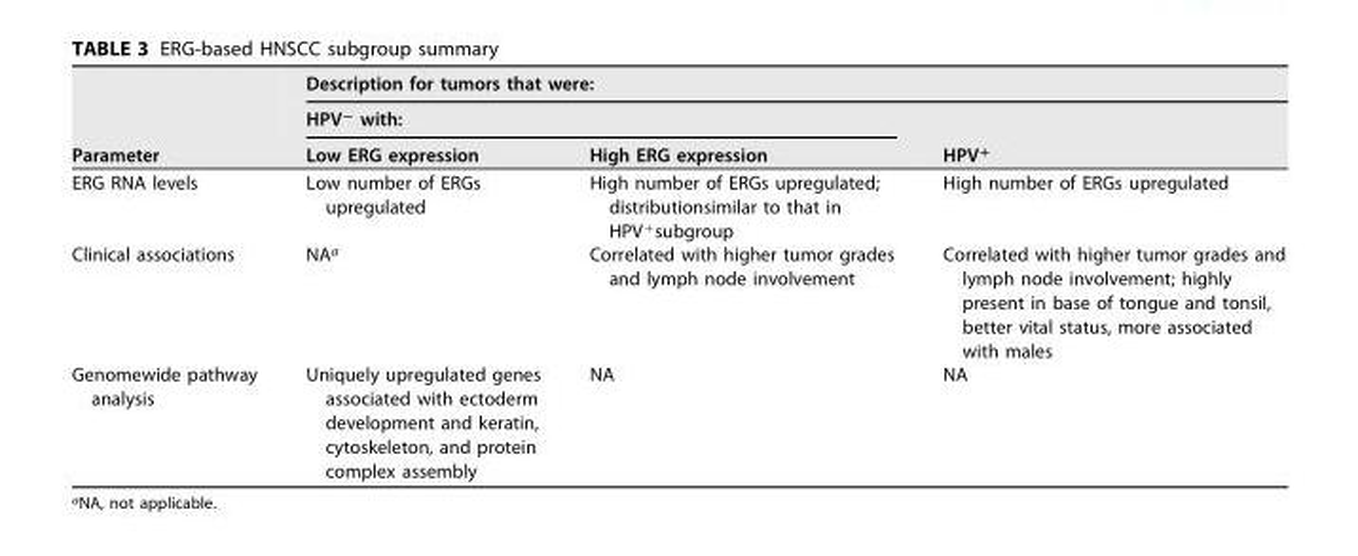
<table><thead><tr><td rowspan="3">Parameter</td><td colspan="3">Description for tumors that were:</td></tr><tr><td colspan="2">HPV<sup>−</sup> with:</td><td rowspan="2">HPV<sup>+</sup></td></tr><tr><td>Low ERG expression</td><td>High ERG expression</td></tr></thead><tbody><tr><td>ERG RNA levels</td><td>Low number of ERGs upregulated</td><td>High number of ERGs upregulated; distributionsimilar to that in HPV<sup>+</sup>subgroup</td><td>High number of ERGs upregulated</td></tr><tr><td>Clinical associations</td><td>NA<sup>a</sup></td><td>Correlated with higher tumor grades and lymph node involvement</td><td>Correlated with higher tumor grades and lymph node involvement; highly present in base of tongue and tonsil, better vital status, more associated with males</td></tr><tr><td>Genomewide pathway analysis</td><td>Uniquely upregulated genes associated with ectoderm development and keratin, cytoskeleton, and protein complex assembly</td><td>NA</td><td>NA</td></tr></tbody></table>